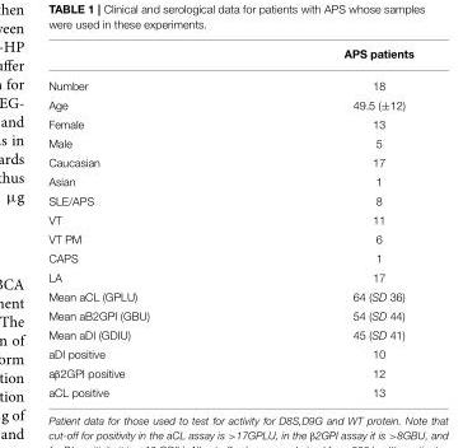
<table><thead><tr><td></td><td>APS patients</td></tr></thead><tbody><tr><td>Number</td><td>18</td></tr><tr><td>Age</td><td>49.5 (±12)</td></tr><tr><td>Female</td><td>13</td></tr><tr><td>Male</td><td>5</td></tr><tr><td>Caucasian</td><td>17</td></tr><tr><td>Asian</td><td>1</td></tr><tr><td>SLE/APS</td><td>8</td></tr><tr><td>VT</td><td>11</td></tr><tr><td>VT PM</td><td>6</td></tr><tr><td>CAPS</td><td>1</td></tr><tr><td>LA</td><td>17</td></tr><tr><td>Mean aCL (GPLU)</td><td>64 (SD 36)</td></tr><tr><td>Mean aB2GPI (GBU)</td><td>54 (SD 44)</td></tr><tr><td>Mean aDI (GDIU)</td><td>45 (SD 41)</td></tr><tr><td>aDI positive</td><td>10</td></tr><tr><td>aβ2GPI positive</td><td>12</td></tr><tr><td>aCL positive</td><td>13</td></tr></tbody></table>